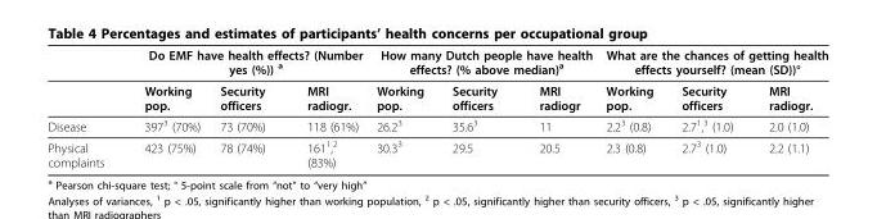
<table><thead><tr><td rowspan="2"></td><td colspan="3">Do EMF have health effects? (Number yes (%)) <sup>a</sup></td><td colspan="3">How many Dutch people have health effects? (% above median)<sup>a</sup></td><td colspan="3">What are the chances of getting health effects yourself? (mean (SD))°</td></tr><tr><td>Working pop.</td><td>Security officers</td><td>MRI radiogr.</td><td>Working pop.</td><td>Security officers</td><td>MRI radiogr</td><td>Working pop.</td><td>Security officers</td><td>MRI radiogr.</td></tr></thead><tbody><tr><td>Disease</td><td>397<sup>3</sup> (70%)</td><td>73 (70%)</td><td>118 (61%)</td><td>26.2<sup>3</sup></td><td>35.6<sup>3</sup></td><td>11</td><td>2.2<sup>3</sup> (0.8)</td><td>2.7<sup>1</sup>,<sup>3</sup> (1.0)</td><td>2.0 (1.0)</td></tr><tr><td>Physical complaints</td><td>423 (75%)</td><td>78 (74%)</td><td>161<sup>1</sup>,<sup>2</sup> (83%)</td><td>30.3<sup>3</sup></td><td>29.5</td><td>20.5</td><td>2.3 (0.8)</td><td>2.7<sup>3</sup> (1.0)</td><td>2.2 (1.1)</td></tr></tbody></table>